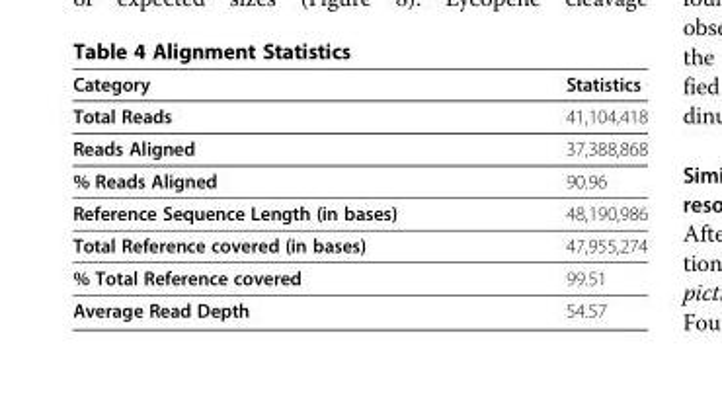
<table><thead><tr><td>Category</td><td>Statistics</td></tr></thead><tbody><tr><td>Total Reads</td><td>41,104,418</td></tr><tr><td>Reads Aligned</td><td>37,388,868</td></tr><tr><td>% Reads Aligned</td><td>90.96</td></tr><tr><td>Reference Sequence Length (in bases)</td><td>48,190,986</td></tr><tr><td>Total Reference covered (in bases)</td><td>47,955,274</td></tr><tr><td>% Total Reference covered</td><td>99.51</td></tr><tr><td>Average Read Depth</td><td>54.57</td></tr></tbody></table>